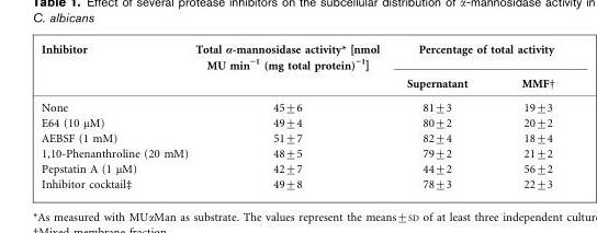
<table><thead><tr><td rowspan="2">Inhibitor</td><td rowspan="2">Total a-mannosidase activity* [nmol MU min”1 (mg total protein)”1]</td><td colspan="2">Percentage of total activity</td></tr><tr><td>Supernatant</td><td>MMF†</td></tr></thead><tbody><tr><td>None</td><td>45±6</td><td>81±3</td><td>19±3</td></tr><tr><td>E64 (10 μM)</td><td>49±4</td><td>80±2</td><td>20±2</td></tr><tr><td>AEBSF (1 mM)</td><td>51±7</td><td>82±4</td><td>18±4</td></tr><tr><td>1,10-Phenanthroline (20 mM)</td><td>48±5</td><td>79±2</td><td>21±2</td></tr><tr><td>Pepstatin A (1 μM)</td><td>42±7</td><td>44±2</td><td>56±2</td></tr><tr><td>Inhibitor cocktail‡</td><td>49±8</td><td>78±3</td><td>22±3</td></tr></tbody></table>